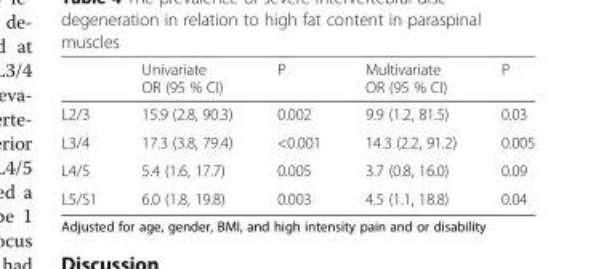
<table><thead><tr><td></td><td>Univariate OR (95 % CI)</td><td>P</td><td>Multivariate OR (95 % CI)</td><td>P</td></tr></thead><tbody><tr><td>L2/3</td><td>15.9 (2.8, 90.3)</td><td>0.002</td><td>9.9 (1.2, 81.5)</td><td>0.03</td></tr><tr><td>L3/4</td><td>17.3 (3.8, 79.4)</td><td>&lt;0.001</td><td>14.3 (2.2, 91.2)</td><td>0.005</td></tr><tr><td>L4/5</td><td>5.4 (1.6, 17.7)</td><td>0.005</td><td>3.7 (0.8, 16.0)</td><td>0.09</td></tr><tr><td>L5/S1</td><td>6.0 (1.8, 19.8)</td><td>0.003</td><td>4.5 (1.1, 18.8)</td><td>0.04</td></tr></tbody></table>